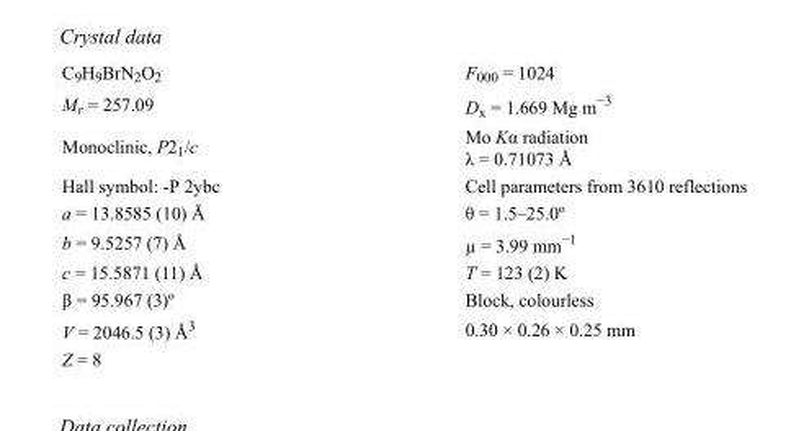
<table><tbody><tr><td>C<sub>9</sub>H<sub>9</sub>BrN<sub>2</sub>O<sub>2</sub></td><td>F<sub>000</sub> = 1024</td></tr><tr><td>M<sub>r</sub> = 257.09</td><td>D<sub>x</sub> = 1.669 Mg m<sup>−3</sup></td></tr><tr><td>Monoclinic, P2<sub>1</sub>/c</td><td>Mo Kα radiation λ = 0.71073 Å</td></tr><tr><td>Hall symbol: -P 2ybc</td><td>Cell parameters from 3610 reflections</td></tr><tr><td>a = 13.8585 (10) Å</td><td>θ = 1.5–25.0º</td></tr><tr><td>b = 9.5257 (7) Å</td><td>µ = 3.99 mm<sup>−1</sup></td></tr><tr><td>c = 15.5871 (11) Å</td><td>T = 123 (2) K</td></tr><tr><td>β = 95.967 (3)º</td><td>Block, colourless</td></tr><tr><td>V = 2046.5 (3) Å<sup>3</sup></td><td>0.30 × 0.26 × 0.25 mm</td></tr><tr><td>Z = 8</td><td></td></tr></tbody></table>